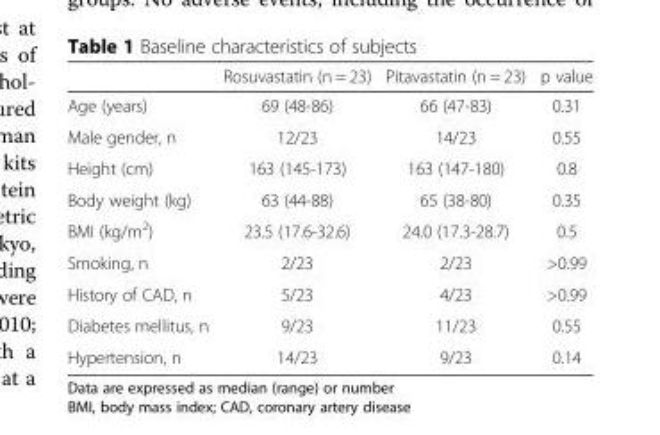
<table><thead><tr><td></td><td>Rosuvastatin (n = 23)</td><td>Pitavastatin (n = 23)</td><td>p value</td></tr></thead><tbody><tr><td>Age (years)</td><td>69 (48-86)</td><td>66 (47-83)</td><td>0.31</td></tr><tr><td>Male gender, n</td><td>12/23</td><td>14/23</td><td>0.55</td></tr><tr><td>Height (cm)</td><td>163 (145-173)</td><td>163 (147-180)</td><td>0.8</td></tr><tr><td>Body weight (kg)</td><td>63 (44-88)</td><td>65 (38-80)</td><td>0.35</td></tr><tr><td>BMI (kg/m<sup>2</sup>)</td><td>23.5 (17.6-32.6)</td><td>24.0 (17.3-28.7)</td><td>0.5</td></tr><tr><td>Smoking, n</td><td>2/23</td><td>2/23</td><td>&gt;0.99</td></tr><tr><td>History of CAD, n</td><td>5/23</td><td>4/23</td><td>&gt;0.99</td></tr><tr><td>Diabetes mellitus, n</td><td>9/23</td><td>11/23</td><td>0.55</td></tr><tr><td>Hypertension, n</td><td>14/23</td><td>9/23</td><td>0.14</td></tr></tbody></table>